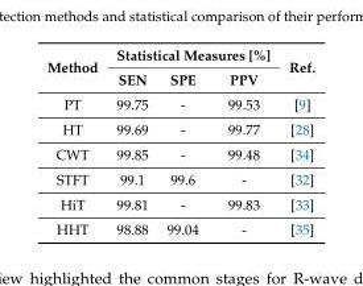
<table><thead><tr><td rowspan="2">Method</td><td colspan="3">Statistical Measures [%]</td><td rowspan="2">Ref.</td></tr><tr><td>SEN</td><td>SPE</td><td>PPV</td></tr></thead><tbody><tr><td>PT</td><td>99.75</td><td>-</td><td>99.53</td><td>[9]</td></tr><tr><td>HT</td><td>99.69</td><td>-</td><td>99.77</td><td>[28]</td></tr><tr><td>CWT</td><td>99.85</td><td>-</td><td>99.48</td><td>[34]</td></tr><tr><td>STFT</td><td>99.1</td><td>99.6</td><td>-</td><td>[32]</td></tr><tr><td>HiT</td><td>99.81</td><td>-</td><td>99.83</td><td>[33]</td></tr><tr><td>HHT</td><td>98.88</td><td>99.04</td><td>-</td><td>[35]</td></tr></tbody></table>